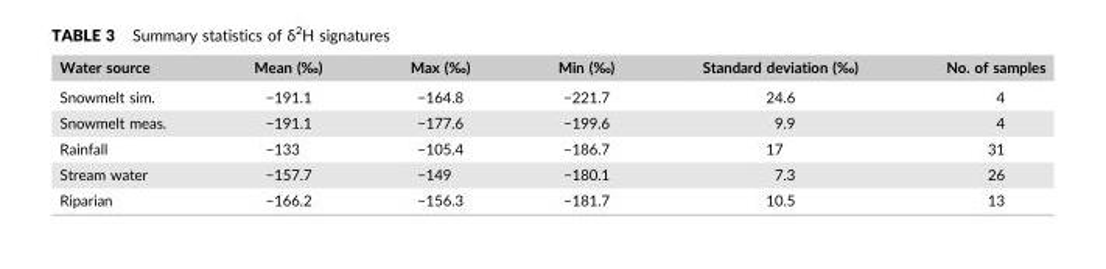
<table><thead><tr><td>Water source</td><td>Mean (‰)</td><td>Max (‰)</td><td>Min (‰)</td><td>Standard deviation (‰)</td><td>No. of samples</td></tr></thead><tbody><tr><td>Snowmelt sim.</td><td>−191.1</td><td>−164.8</td><td>−221.7</td><td>24.6</td><td>4</td></tr><tr><td>Snowmelt meas.</td><td>−191.1</td><td>−177.6</td><td>−199.6</td><td>9.9</td><td>4</td></tr><tr><td>Rainfall</td><td>−133</td><td>−105.4</td><td>−186.7</td><td>17</td><td>31</td></tr><tr><td>Stream water</td><td>−157.7</td><td>−149</td><td>−180.1</td><td>7.3</td><td>26</td></tr><tr><td>Riparian</td><td>−166.2</td><td>−156.3</td><td>−181.7</td><td>10.5</td><td>13</td></tr></tbody></table>